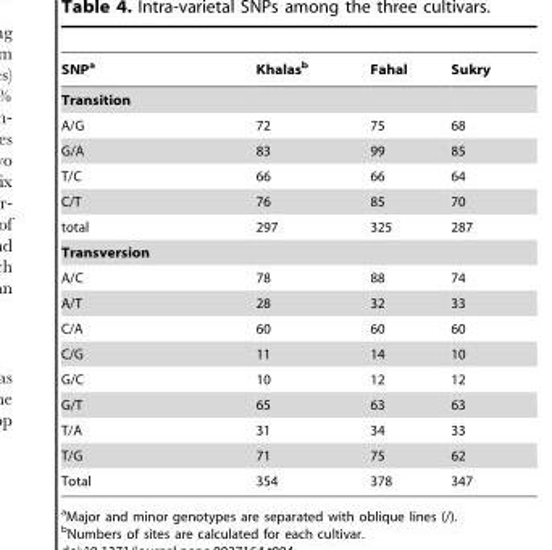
<table><thead><tr><td>SNP<sup>a</sup></td><td>Khalas<sup>b</sup></td><td>Fahal</td><td>Sukry</td></tr></thead><tbody><tr><td colspan="4">Transition</td></tr><tr><td>A/G</td><td>72</td><td>75</td><td>68</td></tr><tr><td>G/A</td><td>83</td><td>99</td><td>85</td></tr><tr><td>T/C</td><td>66</td><td>66</td><td>64</td></tr><tr><td>C/T</td><td>76</td><td>85</td><td>70</td></tr><tr><td>total</td><td>297</td><td>325</td><td>287</td></tr><tr><td colspan="4">Transversion</td></tr><tr><td>A/C</td><td>78</td><td>88</td><td>74</td></tr><tr><td>A/T</td><td>28</td><td>32</td><td>33</td></tr><tr><td>C/A</td><td>60</td><td>60</td><td>60</td></tr><tr><td>C/G</td><td>11</td><td>14</td><td>10</td></tr><tr><td>G/C</td><td>10</td><td>12</td><td>12</td></tr><tr><td>G/T</td><td>65</td><td>63</td><td>63</td></tr><tr><td>T/A</td><td>31</td><td>34</td><td>33</td></tr><tr><td>T/G</td><td>71</td><td>75</td><td>62</td></tr><tr><td>Total</td><td>354</td><td>378</td><td>347</td></tr></tbody></table>